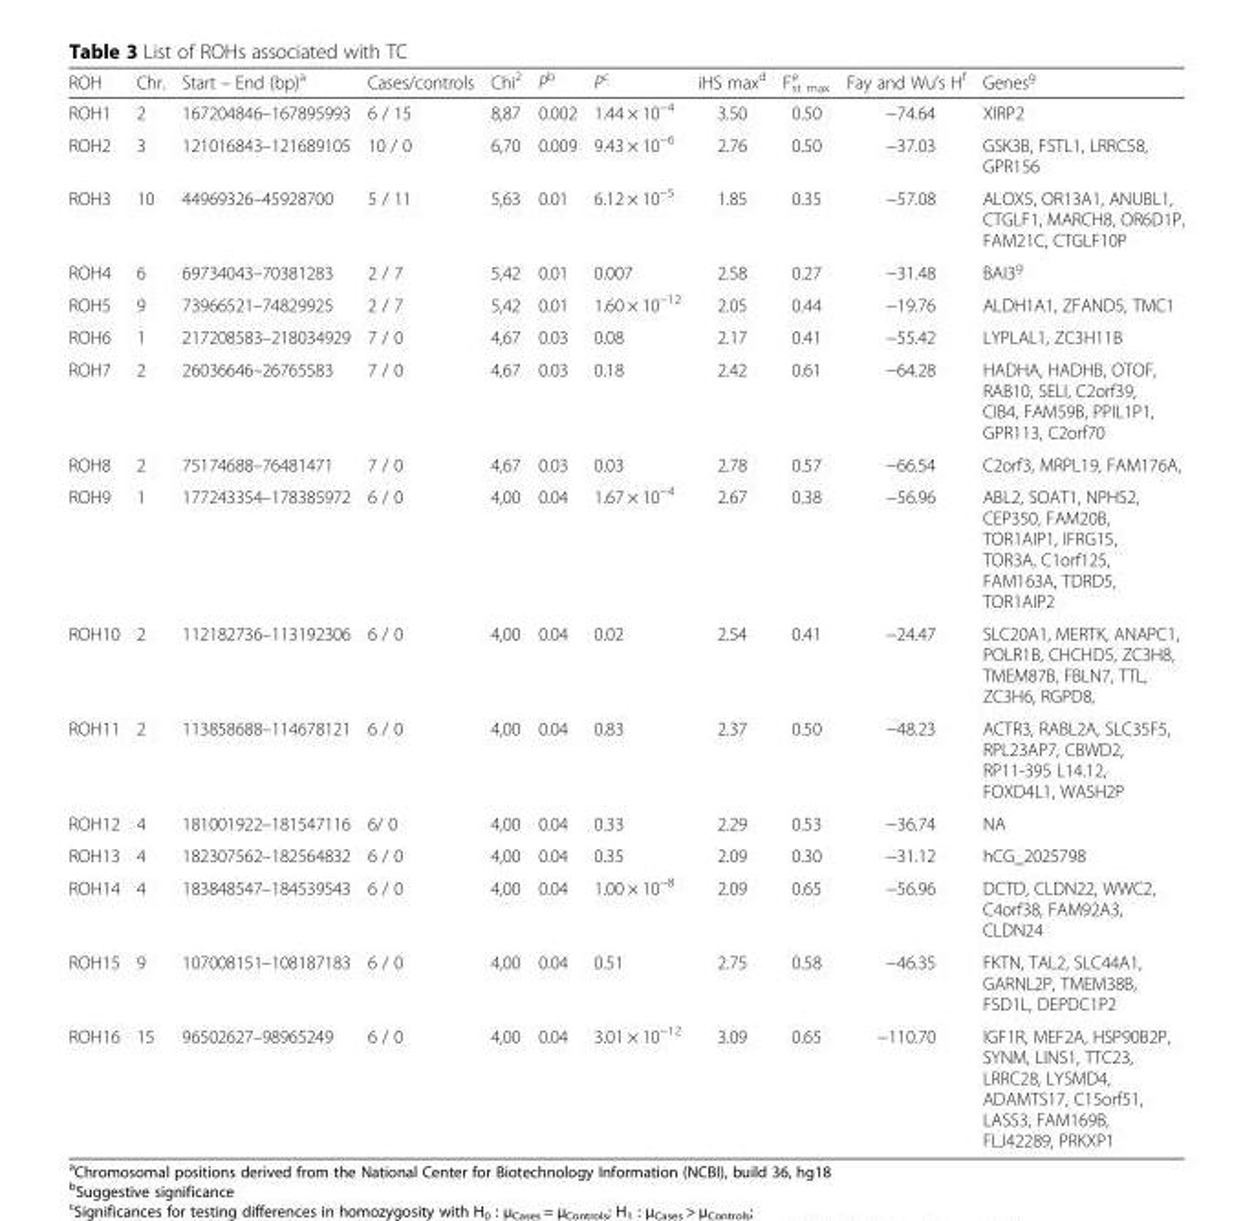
<table><thead><tr><td>ROH</td><td>Chr.</td><td>Start – End (bp)<sup>a</sup></td><td>Cases/controls</td><td>Chi<sup>2</sup></td><td>P<sup>b</sup></td><td>P<sup>c</sup></td><td>iHS max<sup>d</sup></td><td>F<sub>st max</sub> <sup>e</sup></td><td>Fay and Wu’s H<sup>f</sup></td><td>Genes<sup>g</sup></td></tr></thead><tbody><tr><td>ROH1</td><td>2</td><td>167204846–167895993</td><td>6 / 15</td><td>8,87</td><td>0.002</td><td>1.44 × 10<sup>−4</sup></td><td>3.50</td><td>0.50</td><td>−74.64</td><td>XIRP2</td></tr><tr><td>ROH2</td><td>3</td><td>121016843–121689105</td><td>10 / 0</td><td>6,70</td><td>0.009</td><td>9.43 × 10<sup>−6</sup></td><td>2.76</td><td>0.50</td><td>−37.03</td><td>GSK3B, FSTL1, LRRC58, GPR156</td></tr><tr><td>ROH3</td><td>10</td><td>44969326–45928700</td><td>5 / 11</td><td>5,63</td><td>0.01</td><td>6.12 × 10<sup>−5</sup></td><td>1.85</td><td>0.35</td><td>−57.08</td><td>ALOX5, OR13A1, ANUBL1, CTGLF1, MARCH8, OR6D1P, FAM21C, CTGLF10P</td></tr><tr><td>ROH4</td><td>6</td><td>69734043–70381283</td><td>2 / 7</td><td>5,42</td><td>0.01</td><td>0.007</td><td>2.58</td><td>0.27</td><td>−31.48</td><td>BAI3<sup>g</sup></td></tr><tr><td>ROH5</td><td>9</td><td>73966521–74829925</td><td>2 / 7</td><td>5,42</td><td>0.01</td><td>1.60 × 10<sup>−12</sup></td><td>2.05</td><td>0.44</td><td>−19.76</td><td>ALDH1A1, ZFAND5, TMC1</td></tr><tr><td>ROH6</td><td>1</td><td>217208583–218034929</td><td>7 / 0</td><td>4,67</td><td>0.03</td><td>0.08</td><td>2.17</td><td>0.41</td><td>−55.42</td><td>LYPLAL1, ZC3H11B</td></tr><tr><td>ROH7</td><td>2</td><td>26036646–26765583</td><td>7 / 0</td><td>4,67</td><td>0.03</td><td>0.18</td><td>2.42</td><td>0.61</td><td>−64.28</td><td>HADHA, HADHB, OTOF, RAB10, SELI, C2orf39, CIB4, FAM59B, PPIL1P1, GPR113, C2orf70</td></tr><tr><td>ROH8</td><td>2</td><td>75174688–76481471</td><td>7 / 0</td><td>4,67</td><td>0.03</td><td>0.03</td><td>2.78</td><td>0.57</td><td>−66.54</td><td>C2orf3, MRPL19, FAM176A,</td></tr><tr><td>ROH9</td><td>1</td><td>177243354–178385972</td><td>6 / 0</td><td>4,00</td><td>0.04</td><td>1.67 × 10<sup>−4</sup></td><td>2.67</td><td>0.38</td><td>−56.96</td><td>ABL2, SOAT1, NPHS2, CEP350, FAM20B, TOR1AIP1, IFRG15, TOR3A, C1orf125, FAM163A, TDRD5, TOR1AIP2</td></tr><tr><td>ROH10</td><td>2</td><td>112182736–113192306</td><td>6 / 0</td><td>4,00</td><td>0.04</td><td>0.02</td><td>2.54</td><td>0.41</td><td>−24.47</td><td>SLC20A1, MERTK, ANAPC1, POLR1B, CHCHD5, ZC3H8, TMEM87B, FBLN7, TTL, ZC3H6, RGPD8,</td></tr><tr><td>ROH11</td><td>2</td><td>113858688–114678121</td><td>6 / 0</td><td>4,00</td><td>0.04</td><td>0.83</td><td>2.37</td><td>0.50</td><td>−48.23</td><td>ACTR3, RABL2A, SLC35F5, RPL23AP7, CBWD2, RP11-395 L14.12, FOXD4L1, WASH2P</td></tr><tr><td>ROH12</td><td>4</td><td>181001922–181547116</td><td>6/ 0</td><td>4,00</td><td>0.04</td><td>0.33</td><td>2.29</td><td>0.53</td><td>−36.74</td><td>NA</td></tr><tr><td>ROH13</td><td>4</td><td>182307562–182564832</td><td>6 / 0</td><td>4,00</td><td>0.04</td><td>0.35</td><td>2.09</td><td>0.30</td><td>−31.12</td><td>hCG_2025798</td></tr><tr><td>ROH14</td><td>4</td><td>183848547–184539543</td><td>6 / 0</td><td>4,00</td><td>0.04</td><td>1.00 × 10<sup>−8</sup></td><td>2.09</td><td>0.65</td><td>−56.96</td><td>DCTD, CLDN22, WWC2, C4orf38, FAM92A3, CLDN24</td></tr><tr><td>ROH15</td><td>9</td><td>107008151–108187183</td><td>6 / 0</td><td>4,00</td><td>0.04</td><td>0.51</td><td>2.75</td><td>0.58</td><td>−46.35</td><td>FKTN, TAL2, SLC44A1, GARNL2P, TMEM38B, FSD1L, DEPDC1P2</td></tr><tr><td>ROH16</td><td>15</td><td>96502627–98965249</td><td>6 / 0</td><td>4,00</td><td>0.04</td><td>3.01 × 10<sup>−12</sup></td><td>3.09</td><td>0.65</td><td>−110.70</td><td>IGF1R, MEF2A, HSP90B2P, SYNM, LINS1, TTC23, LRRC28, LYSMD4, ADAMTS17, C15orf51, LASS3, FAM169B, FLJ42289, PRKXP1</td></tr></tbody></table>